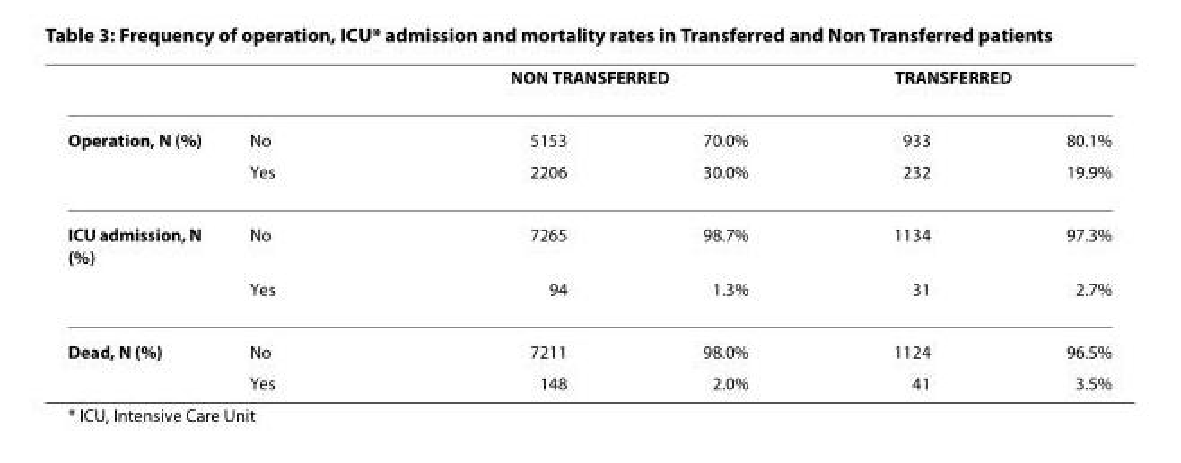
<table><thead><tr><td rowspan="2">Operation, N (%)</td><td rowspan="2">No</td><td colspan="2">NON TRANSFERRED</td><td colspan="2">TRANSFERRED</td></tr><tr><td>5153</td><td>70.0%</td><td>933</td><td>80.1%</td></tr></thead><tbody><tr><td></td><td>Yes</td><td>2206</td><td>30.0%</td><td>232</td><td>19.9%</td></tr><tr><td rowspan="2">ICU admission, N (%)</td><td>No</td><td>7265</td><td>98.7%</td><td>1134</td><td>97.3%</td></tr><tr><td>Yes</td><td>94</td><td>1.3%</td><td>31</td><td>2.7%</td></tr><tr><td rowspan="2">Dead, N (%)</td><td>No</td><td>7211</td><td>98.0%</td><td>1124</td><td>96.5%</td></tr><tr><td>Yes</td><td>148</td><td>2.0%</td><td>41</td><td>3.5%</td></tr></tbody></table>